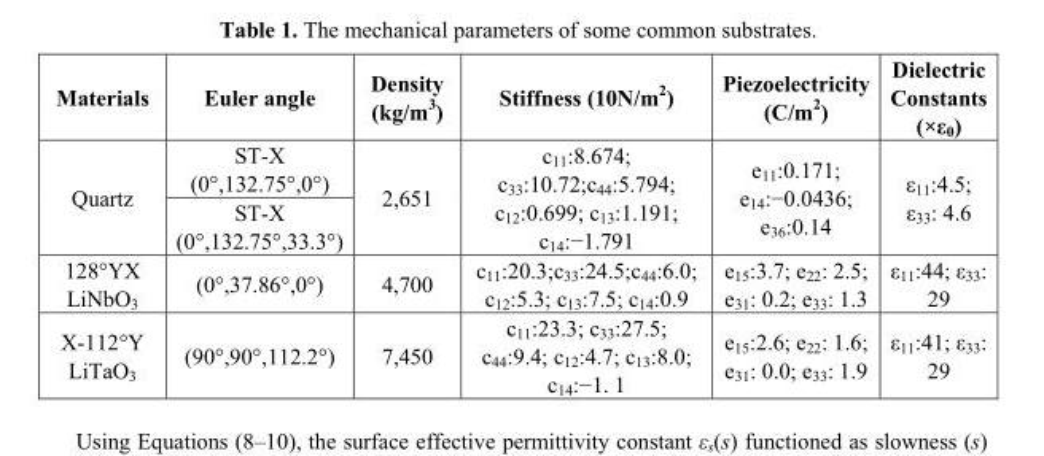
<table><thead><tr><td>Materials</td><td>Euler angle</td><td>Density (kg/m<sup>3</sup>)</td><td>Stiffness (10N/m<sup>2</sup>)</td><td>Piezoelectricity (C/m<sup>2</sup>)</td><td>Dielectric Constants (×ε<sub>0</sub>)</td></tr></thead><tbody><tr><td rowspan="2">Quartz</td><td>ST-X (0°,132.75°,0°)</td><td rowspan="2">2,651</td><td rowspan="2">c<sub>11</sub>:8.674; c<sub>33</sub>:10.72;c<sub>44</sub>:5.794; c<sub>12</sub>:0.699; c<sub>13</sub>:1.191; c<sub>14</sub>:−1.791</td><td rowspan="2">e<sub>11</sub>:0.171; e<sub>14</sub>:−0.0436; e<sub>36</sub>:0.14</td><td rowspan="2">ε<sub>11</sub>:4.5; ε<sub>33</sub>: 4.6</td></tr><tr><td>ST-X (0°,132.75°,33.3°)</td></tr><tr><td>128°YX LiNbO<sub>3</sub></td><td>(0°,37.86°,0°)</td><td>4,700</td><td>c<sub>11</sub>:20.3;c<sub>33</sub>:24.5;c<sub>44</sub>:6.0; c<sub>12</sub>:5.3; c<sub>13</sub>:7.5; c<sub>14</sub>:0.9</td><td>e<sub>15</sub>:3.7; e<sub>22</sub>: 2.5; e<sub>31</sub>: 0.2; e<sub>33</sub>: 1.3</td><td>ε<sub>11</sub>:44; ε<sub>33</sub>: 29</td></tr><tr><td>X-112°Y LiTaO<sub>3</sub></td><td>(90°,90°,112.2°)</td><td>7,450</td><td>c<sub>11</sub>:23.3; c<sub>33</sub>:27.5; c<sub>44</sub>:9.4; c<sub>12</sub>:4.7; c<sub>13</sub>:8.0; c<sub>14</sub>:−1. 1</td><td>e<sub>15</sub>:2.6; e<sub>22</sub>: 1.6; e<sub>31</sub>: 0.0; e<sub>33</sub>: 1.9</td><td>ε<sub>11</sub>:41; ε<sub>33</sub>: 29</td></tr></tbody></table>